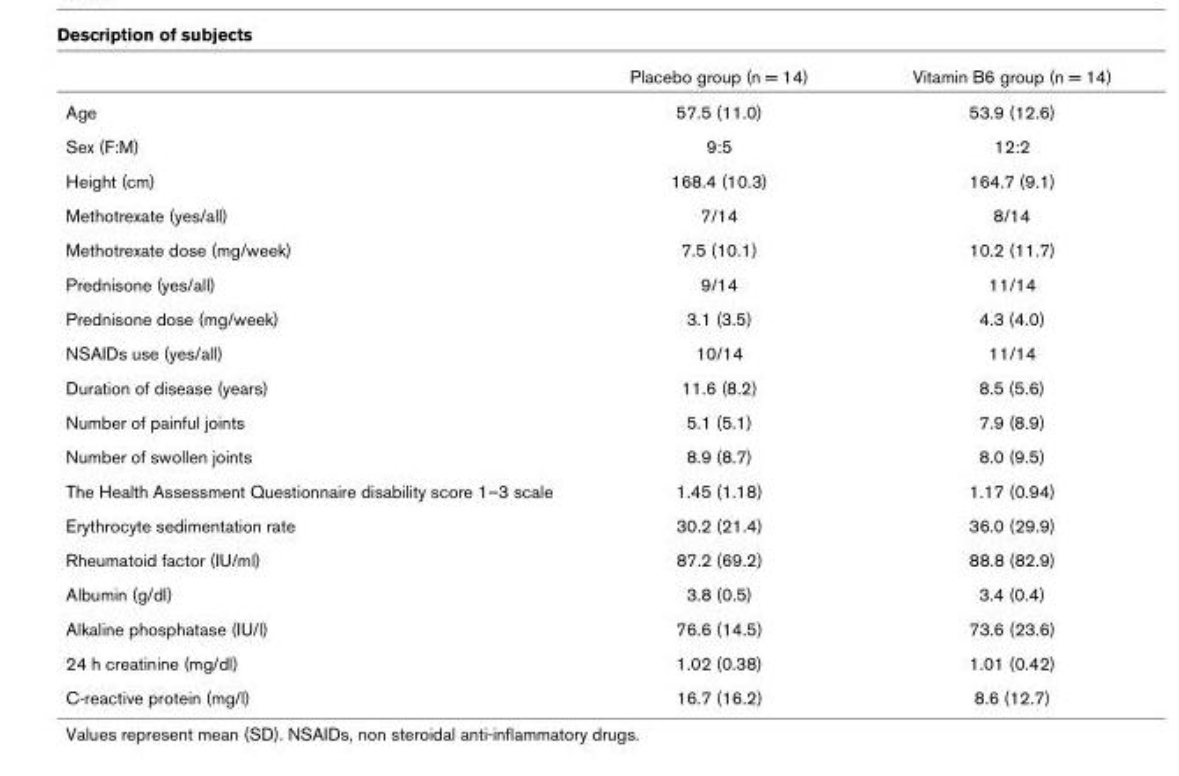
<table><thead><tr><td></td><td>Placebo group (n = 14)</td><td>Vitamin B6 group (n = 14)</td></tr></thead><tbody><tr><td>Age</td><td>57.5 (11.0)</td><td>53.9 (12.6)</td></tr><tr><td>Sex (F:M)</td><td>9:5</td><td>12:2</td></tr><tr><td>Height (cm)</td><td>168.4 (10.3)</td><td>164.7 (9.1)</td></tr><tr><td>Methotrexate (yes/all)</td><td>7/14</td><td>8/14</td></tr><tr><td>Methotrexate dose (mg/week)</td><td>7.5 (10.1)</td><td>10.2 (11.7)</td></tr><tr><td>Prednisone (yes/all)</td><td>9/14</td><td>11/14</td></tr><tr><td>Prednisone dose (mg/week)</td><td>3.1 (3.5)</td><td>4.3 (4.0)</td></tr><tr><td>NSAIDs use (yes/all)</td><td>10/14</td><td>11/14</td></tr><tr><td>Duration of disease (years)</td><td>11.6 (8.2)</td><td>8.5 (5.6)</td></tr><tr><td>Number of painful joints</td><td>5.1 (5.1)</td><td>7.9 (8.9)</td></tr><tr><td>Number of swollen joints</td><td>8.9 (8.7)</td><td>8.0 (9.5)</td></tr><tr><td>The Health Assessment Questionnaire disability score 1–3 scale</td><td>1.45 (1.18)</td><td>1.17 (0.94)</td></tr><tr><td>Erythrocyte sedimentation rate</td><td>30.2 (21.4)</td><td>36.0 (29.9)</td></tr><tr><td>Rheumatoid factor (IU/ml)</td><td>87.2 (69.2)</td><td>88.8 (82.9)</td></tr><tr><td>Albumin (g/dl)</td><td>3.8 (0.5)</td><td>3.4 (0.4)</td></tr><tr><td>Alkaline phosphatase (IU/l)</td><td>76.6 (14.5)</td><td>73.6 (23.6)</td></tr><tr><td>24 h creatinine (mg/dl)</td><td>1.02 (0.38)</td><td>1.01 (0.42)</td></tr><tr><td>C-reactive protein (mg/l)</td><td>16.7 (16.2)</td><td>8.6 (12.7)</td></tr></tbody></table>